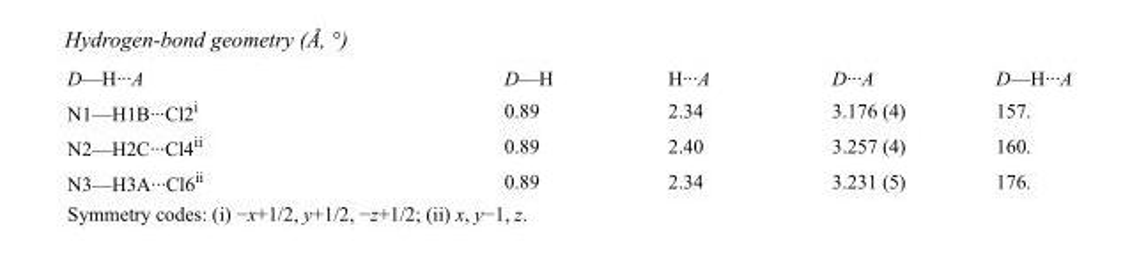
<table><tbody><tr><td>D—H···A</td><td>D—H</td><td>H···A</td><td>D···A</td><td>D—H···A</td></tr><tr><td>N1—H1B···Cl2<sup>i</sup></td><td>0.89</td><td>2.34</td><td>3.176 (4)</td><td>157.</td></tr><tr><td>N2—H2C···Cl4<sup>ii</sup></td><td>0.89</td><td>2.40</td><td>3.257 (4)</td><td>160.</td></tr><tr><td>N3—H3A···Cl6<sup>ii</sup></td><td>0.89</td><td>2.34</td><td>3.231 (5)</td><td>176.</td></tr></tbody></table>